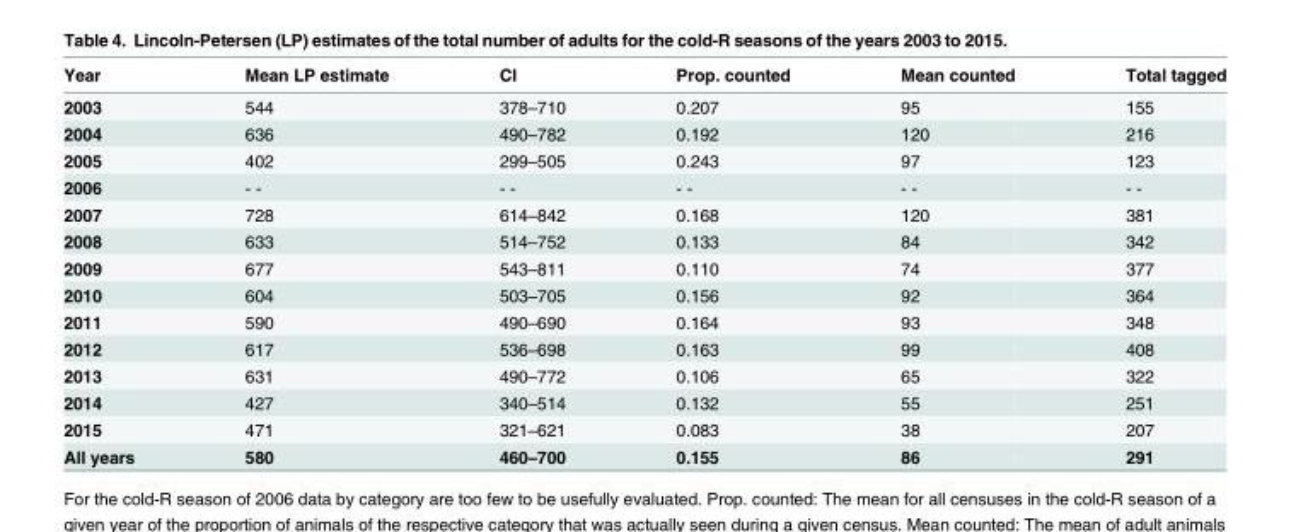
<table><thead><tr><td>Year</td><td>Mean LP estimate</td><td>CI</td><td>Prop. counted</td><td>Mean counted</td><td>Total tagged</td></tr></thead><tbody><tr><td>2003</td><td>544</td><td>378–710</td><td>0.207</td><td>95</td><td>155</td></tr><tr><td>2004</td><td>636</td><td>490–782</td><td>0.192</td><td>120</td><td>216</td></tr><tr><td>2005</td><td>402</td><td>299–505</td><td>0.243</td><td>97</td><td>123</td></tr><tr><td>2006</td><td>- -</td><td>- -</td><td>- -</td><td>- -</td><td>- -</td></tr><tr><td>2007</td><td>728</td><td>614–842</td><td>0.168</td><td>120</td><td>381</td></tr><tr><td>2008</td><td>633</td><td>514–752</td><td>0.133</td><td>84</td><td>342</td></tr><tr><td>2009</td><td>677</td><td>543–811</td><td>0.110</td><td>74</td><td>377</td></tr><tr><td>2010</td><td>604</td><td>503–705</td><td>0.156</td><td>92</td><td>364</td></tr><tr><td>2011</td><td>590</td><td>490–690</td><td>0.164</td><td>93</td><td>348</td></tr><tr><td>2012</td><td>617</td><td>536–698</td><td>0.163</td><td>99</td><td>408</td></tr><tr><td>2013</td><td>631</td><td>490–772</td><td>0.106</td><td>65</td><td>322</td></tr><tr><td>2014</td><td>427</td><td>340–514</td><td>0.132</td><td>55</td><td>251</td></tr><tr><td>2015</td><td>471</td><td>321–621</td><td>0.083</td><td>38</td><td>207</td></tr><tr><td>All years</td><td>580</td><td>460–700</td><td>0.155</td><td>86</td><td>291</td></tr></tbody></table>